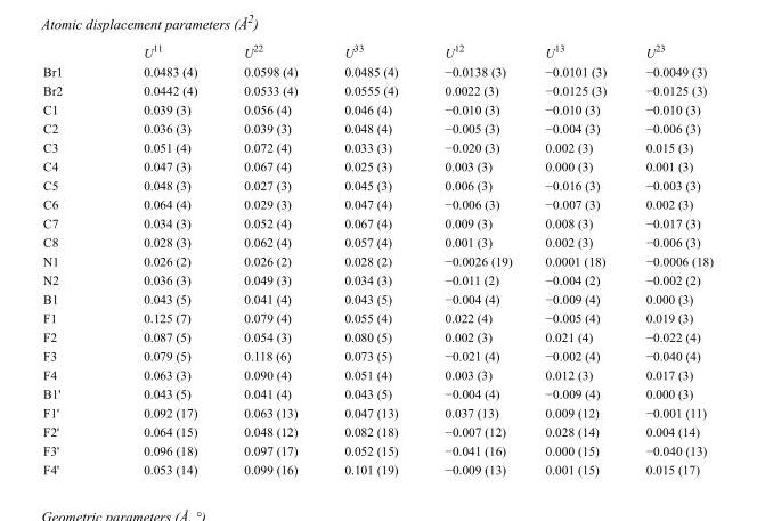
<table><thead><tr><td></td><td>U<sup>11</sup></td><td>U<sup>22</sup></td><td>U<sup>33</sup></td><td>U<sup>12</sup></td><td>U<sup>13</sup></td><td>U<sup>23</sup></td></tr></thead><tbody><tr><td>Br1</td><td>0.0483 (4)</td><td>0.0598 (4)</td><td>0.0485 (4)</td><td>−0.0138 (3)</td><td>−0.0101 (3)</td><td>−0.0049 (3)</td></tr><tr><td>Br2</td><td>0.0442 (4)</td><td>0.0533 (4)</td><td>0.0555 (4)</td><td>0.0022 (3)</td><td>−0.0125 (3)</td><td>−0.0125 (3)</td></tr><tr><td>C1</td><td>0.039 (3)</td><td>0.056 (4)</td><td>0.046 (4)</td><td>−0.010 (3)</td><td>−0.010 (3)</td><td>−0.010 (3)</td></tr><tr><td>C2</td><td>0.036 (3)</td><td>0.039 (3)</td><td>0.048 (4)</td><td>−0.005 (3)</td><td>−0.004 (3)</td><td>−0.006 (3)</td></tr><tr><td>C3</td><td>0.051 (4)</td><td>0.072 (4)</td><td>0.033 (3)</td><td>−0.020 (3)</td><td>0.002 (3)</td><td>0.015 (3)</td></tr><tr><td>C4</td><td>0.047 (3)</td><td>0.067 (4)</td><td>0.025 (3)</td><td>0.003 (3)</td><td>0.000 (3)</td><td>0.001 (3)</td></tr><tr><td>C5</td><td>0.048 (3)</td><td>0.027 (3)</td><td>0.045 (3)</td><td>0.006 (3)</td><td>−0.016 (3)</td><td>−0.003 (3)</td></tr><tr><td>C6</td><td>0.064 (4)</td><td>0.029 (3)</td><td>0.047 (4)</td><td>−0.006 (3)</td><td>−0.007 (3)</td><td>0.002 (3)</td></tr><tr><td>C7</td><td>0.034 (3)</td><td>0.052 (4)</td><td>0.067 (4)</td><td>0.009 (3)</td><td>0.008 (3)</td><td>−0.017 (3)</td></tr><tr><td>C8</td><td>0.028 (3)</td><td>0.062 (4)</td><td>0.057 (4)</td><td>0.001 (3)</td><td>0.002 (3)</td><td>−0.006 (3)</td></tr><tr><td>N1</td><td>0.026 (2)</td><td>0.026 (2)</td><td>0.028 (2)</td><td>−0.0026 (19)</td><td>0.0001 (18)</td><td>−0.0006 (18)</td></tr><tr><td>N2</td><td>0.036 (3)</td><td>0.049 (3)</td><td>0.034 (3)</td><td>−0.011 (2)</td><td>−0.004 (2)</td><td>−0.002 (2)</td></tr><tr><td>B1</td><td>0.043 (5)</td><td>0.041 (4)</td><td>0.043 (5)</td><td>−0.004 (4)</td><td>−0.009 (4)</td><td>0.000 (3)</td></tr><tr><td>F1</td><td>0.125 (7)</td><td>0.079 (4)</td><td>0.055 (4)</td><td>0.022 (4)</td><td>−0.005 (4)</td><td>0.019 (3)</td></tr><tr><td>F2</td><td>0.087 (5)</td><td>0.054 (3)</td><td>0.080 (5)</td><td>0.002 (3)</td><td>0.021 (4)</td><td>−0.022 (4)</td></tr><tr><td>F3</td><td>0.079 (5)</td><td>0.118 (6)</td><td>0.073 (5)</td><td>−0.021 (4)</td><td>−0.002 (4)</td><td>−0.040 (4)</td></tr><tr><td>F4</td><td>0.063 (3)</td><td>0.090 (4)</td><td>0.051 (4)</td><td>0.003 (3)</td><td>0.012 (3)</td><td>0.017 (3)</td></tr><tr><td>B1&#x27;</td><td>0.043 (5)</td><td>0.041 (4)</td><td>0.043 (5)</td><td>−0.004 (4)</td><td>−0.009 (4)</td><td>0.000 (3)</td></tr><tr><td>F1&#x27;</td><td>0.092 (17)</td><td>0.063 (13)</td><td>0.047 (13)</td><td>0.037 (13)</td><td>0.009 (12)</td><td>−0.001 (11)</td></tr><tr><td>F2&#x27;</td><td>0.064 (15)</td><td>0.048 (12)</td><td>0.082 (18)</td><td>−0.007 (12)</td><td>0.028 (14)</td><td>0.004 (14)</td></tr><tr><td>F3&#x27;</td><td>0.096 (18)</td><td>0.097 (17)</td><td>0.052 (15)</td><td>−0.041 (16)</td><td>0.000 (15)</td><td>−0.040 (13)</td></tr><tr><td>F4&#x27;</td><td>0.053 (14)</td><td>0.099 (16)</td><td>0.101 (19)</td><td>−0.009 (13)</td><td>0.001 (15)</td><td>0.015 (17)</td></tr></tbody></table>